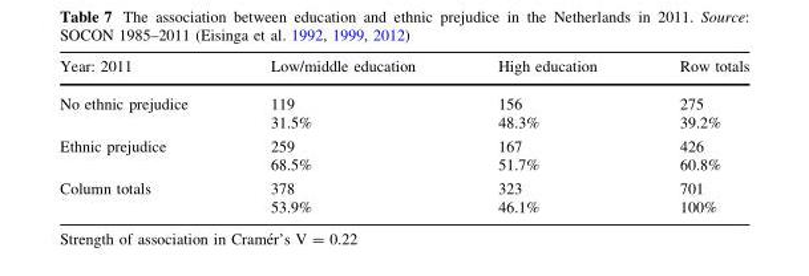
<table><thead><tr><td>Year: 2011</td><td>Low/middle education</td><td>High education</td><td>Row totals</td></tr></thead><tbody><tr><td>No ethnic prejudice</td><td>119 31.5%</td><td>156 48.3%</td><td>275 39.2%</td></tr><tr><td>Ethnic prejudice</td><td>259 68.5%</td><td>167 51.7%</td><td>426 60.8%</td></tr><tr><td>Column totals</td><td>378 53.9%</td><td>323 46.1%</td><td>701 100%</td></tr></tbody></table>